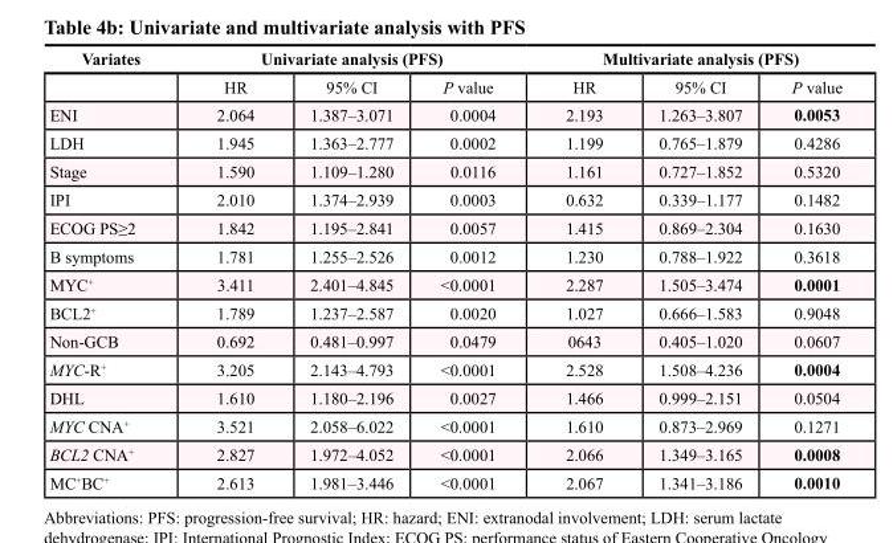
<table><thead><tr><td rowspan="2">Variates</td><td colspan="3">Univariate analysis (PFS)</td><td colspan="3">Multivariate analysis (PFS)</td></tr><tr><td>HR</td><td>95% CI</td><td>P value</td><td>HR</td><td>95% CI</td><td>P value</td></tr></thead><tbody><tr><td>ENI</td><td>2.064</td><td>1.387–3.071</td><td>0.0004</td><td>2.193</td><td>1.263–3.807</td><td>0.0053</td></tr><tr><td>LDH</td><td>1.945</td><td>1.363–2.777</td><td>0.0002</td><td>1.199</td><td>0.765–1.879</td><td>0.4286</td></tr><tr><td>Stage</td><td>1.590</td><td>1.109–1.280</td><td>0.0116</td><td>1.161</td><td>0.727–1.852</td><td>0.5320</td></tr><tr><td>IPI</td><td>2.010</td><td>1.374–2.939</td><td>0.0003</td><td>0.632</td><td>0.339–1.177</td><td>0.1482</td></tr><tr><td>ECOG PS≥2</td><td>1.842</td><td>1.195–2.841</td><td>0.0057</td><td>1.415</td><td>0.869–2.304</td><td>0.1630</td></tr><tr><td>B symptoms</td><td>1.781</td><td>1.255–2.526</td><td>0.0012</td><td>1.230</td><td>0.788–1.922</td><td>0.3618</td></tr><tr><td>MYC<sup>+</sup></td><td>3.411</td><td>2.401–4.845</td><td>&lt;0.0001</td><td>2.287</td><td>1.505–3.474</td><td>0.0001</td></tr><tr><td>BCL2<sup>+</sup></td><td>1.789</td><td>1.237–2.587</td><td>0.0020</td><td>1.027</td><td>0.666–1.583</td><td>0.9048</td></tr><tr><td>Non-GCB</td><td>0.692</td><td>0.481–0.997</td><td>0.0479</td><td>0643</td><td>0.405–1.020</td><td>0.0607</td></tr><tr><td>MYC-R<sup>+</sup></td><td>3.205</td><td>2.143–4.793</td><td>&lt;0.0001</td><td>2.528</td><td>1.508–4.236</td><td>0.0004</td></tr><tr><td>DHL</td><td>1.610</td><td>1.180–2.196</td><td>0.0027</td><td>1.466</td><td>0.999–2.151</td><td>0.0504</td></tr><tr><td>MYC CNA<sup>+</sup></td><td>3.521</td><td>2.058–6.022</td><td>&lt;0.0001</td><td>1.610</td><td>0.873–2.969</td><td>0.1271</td></tr><tr><td>BCL2 CNA<sup>+</sup></td><td>2.827</td><td>1.972–4.052</td><td>&lt;0.0001</td><td>2.066</td><td>1.349–3.165</td><td>0.0008</td></tr><tr><td>MC<sup>+</sup>BC<sup>+</sup></td><td>2.613</td><td>1.981–3.446</td><td>&lt;0.0001</td><td>2.067</td><td>1.341–3.186</td><td>0.0010</td></tr></tbody></table>